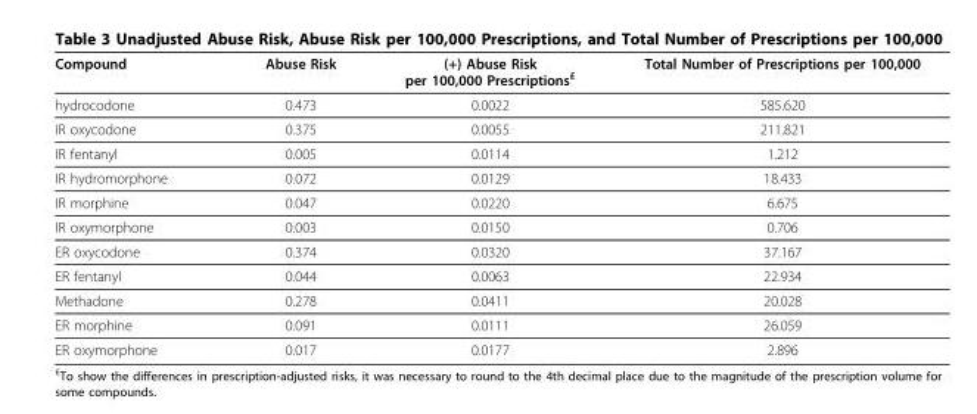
<table><thead><tr><td>Compound</td><td>Abuse Risk</td><td>(+) Abuse Risk per 100,000 Prescriptions£</td><td>Total Number of Prescriptions per 100,000</td></tr></thead><tbody><tr><td>hydrocodone</td><td>0.473</td><td>0.0022</td><td>585.620</td></tr><tr><td>IR oxycodone</td><td>0.375</td><td>0.0055</td><td>211.821</td></tr><tr><td>IR fentanyl</td><td>0.005</td><td>0.0114</td><td>1.212</td></tr><tr><td>IR hydromorphone</td><td>0.072</td><td>0.0129</td><td>18.433</td></tr><tr><td>IR morphine</td><td>0.047</td><td>0.0220</td><td>6.675</td></tr><tr><td>IR oxymorphone</td><td>0.003</td><td>0.0150</td><td>0.706</td></tr><tr><td>ER oxycodone</td><td>0.374</td><td>0.0320</td><td>37.167</td></tr><tr><td>ER fentanyl</td><td>0.044</td><td>0.0063</td><td>22.934</td></tr><tr><td>Methadone</td><td>0.278</td><td>0.0411</td><td>20.028</td></tr><tr><td>ER morphine</td><td>0.091</td><td>0.0111</td><td>26.059</td></tr><tr><td>ER oxymorphone</td><td>0.017</td><td>0.0177</td><td>2.896</td></tr></tbody></table>